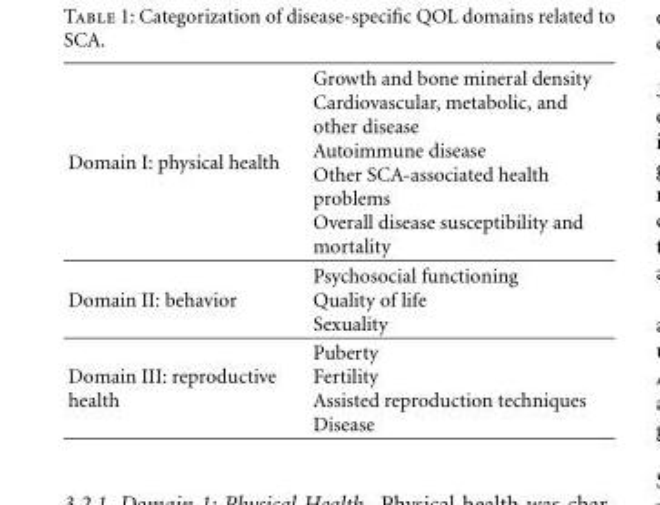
<table><tbody><tr><td>Domain I: physical health</td><td>Growth and bone mineral density Cardiovascular, metabolic, and other disease Autoimmune disease Other SCA-associated health problems Overall disease susceptibility and mortality</td></tr><tr><td>Domain II: behavior</td><td>Psychosocial functioning Quality of life Sexuality</td></tr><tr><td>Domain III: reproductive health</td><td>Puberty Fertility Assisted reproduction techniques Disease</td></tr></tbody></table>